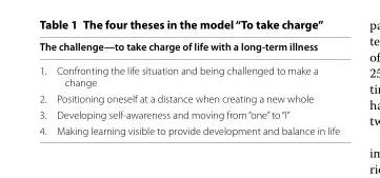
<table><thead><tr><td colspan="2">The challenge—to take charge of life with a long-term illness</td></tr><tr><td>1.</td><td>Confronting the life situation and being challenged to make a change</td></tr></thead><tbody><tr><td>2.</td><td>Positioning oneself at a distance when creating a new whole</td></tr><tr><td>3.</td><td>Developing self-awareness and moving from “one” to “I”</td></tr><tr><td>4.</td><td>Making learning visible to provide development and balance in life</td></tr></tbody></table>